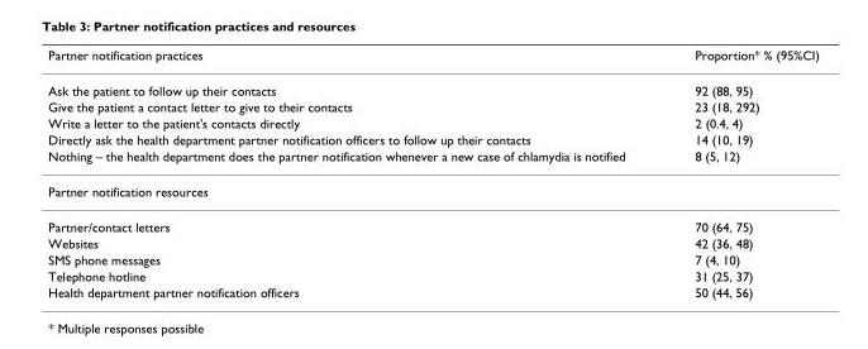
<table><thead><tr><td>Partner notification practices</td><td>Proportion* % (95%CI)</td></tr></thead><tbody><tr><td>Ask the patient to follow up their contacts</td><td>92 (88, 95)</td></tr><tr><td>Give the patient a contact letter to give to their contacts</td><td>23 (18, 292)</td></tr><tr><td>Write a letter to the patient&#x27;s contacts directly</td><td>2 (0.4, 4)</td></tr><tr><td>Directly ask the health department partner notification officers to follow up their contacts</td><td>14 (10, 19)</td></tr><tr><td>Nothing – the health department does the partner notification whenever a new case of chlamydia is notified</td><td>8 (5, 12)</td></tr><tr><td colspan="2">Partner notification resources</td></tr><tr><td>Partner/contact letters</td><td>70 (64, 75)</td></tr><tr><td>Websites</td><td>42 (36, 48)</td></tr><tr><td>SMS phone messages</td><td>7 (4, 10)</td></tr><tr><td>Telephone hotline</td><td>31 (25, 37)</td></tr><tr><td>Health department partner notification officers</td><td>50 (44, 56)</td></tr></tbody></table>